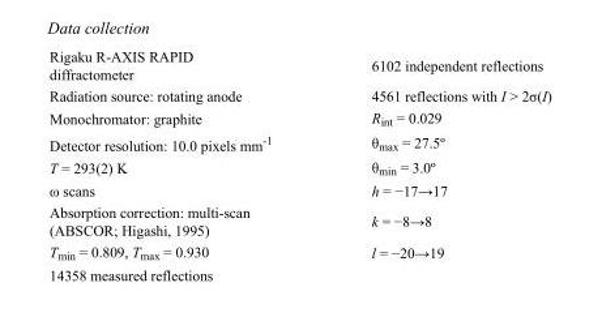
<table><tbody><tr><td>Rigaku R-AXIS RAPID diffractometer</td><td>6102 independent reflections</td></tr><tr><td>Radiation source: rotating anode</td><td>4561 reflections with I &gt; 2σ(I)</td></tr><tr><td>Monochromator: graphite</td><td>R<sub>int</sub> = 0.029</td></tr><tr><td>Detector resolution: 10.0 pixels mm<sup>-1</sup></td><td>θ<sub>max</sub> = 27.5º</td></tr><tr><td>T = 293(2) K</td><td>θ<sub>min</sub> = 3.0º</td></tr><tr><td>ω scans</td><td>h = −17→17</td></tr><tr><td>Absorption correction: multi-scan (ABSCOR; Higashi, 1995)</td><td>k = −8→8</td></tr><tr><td>T<sub>min</sub> = 0.809, T<sub>max</sub> = 0.930</td><td>l = −20→19</td></tr><tr><td>14358 measured reflections</td><td></td></tr></tbody></table>